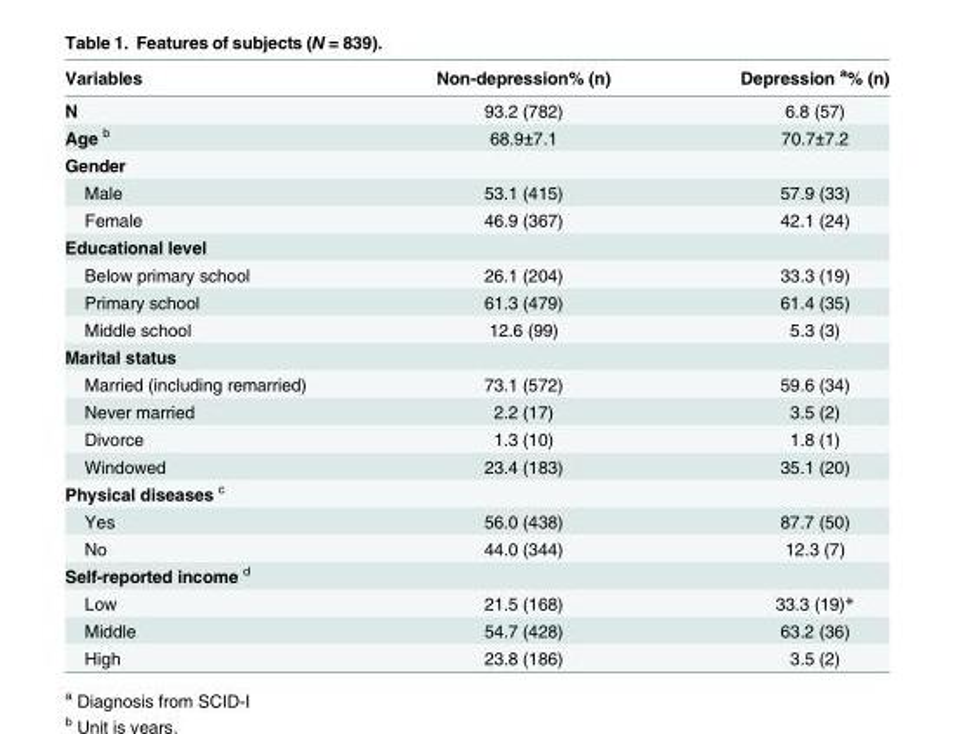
<table><thead><tr><td>Variables</td><td>Non-depression% (n)</td><td>Depression <sup>a</sup>% (n)</td></tr></thead><tbody><tr><td>N</td><td>93.2 (782)</td><td>6.8 (57)</td></tr><tr><td>Age <sup>b</sup></td><td>68.9±7.1</td><td>70.7±7.2</td></tr><tr><td colspan="3">Gender</td></tr><tr><td>Male</td><td>53.1 (415)</td><td>57.9 (33)</td></tr><tr><td>Female</td><td>46.9 (367)</td><td>42.1 (24)</td></tr><tr><td colspan="3">Educational level</td></tr><tr><td>Below primary school</td><td>26.1 (204)</td><td>33.3 (19)</td></tr><tr><td>Primary school</td><td>61.3 (479)</td><td>61.4 (35)</td></tr><tr><td>Middle school</td><td>12.6 (99)</td><td>5.3 (3)</td></tr><tr><td colspan="3">Marital status</td></tr><tr><td>Married (including remarried)</td><td>73.1 (572)</td><td>59.6 (34)</td></tr><tr><td>Never married</td><td>2.2 (17)</td><td>3.5 (2)</td></tr><tr><td>Divorce</td><td>1.3 (10)</td><td>1.8 (1)</td></tr><tr><td>Windowed</td><td>23.4 (183)</td><td>35.1 (20)</td></tr><tr><td colspan="3">Physical diseases <sup>c</sup></td></tr><tr><td>Yes</td><td>56.0 (438)</td><td>87.7 (50)</td></tr><tr><td>No</td><td>44.0 (344)</td><td>12.3 (7)</td></tr><tr><td colspan="3">Self-reported income <sup>d</sup></td></tr><tr><td>Low</td><td>21.5 (168)</td><td>33.3 (19)*</td></tr><tr><td>Middle</td><td>54.7 (428)</td><td>63.2 (36)</td></tr><tr><td>High</td><td>23.8 (186)</td><td>3.5 (2)</td></tr></tbody></table>